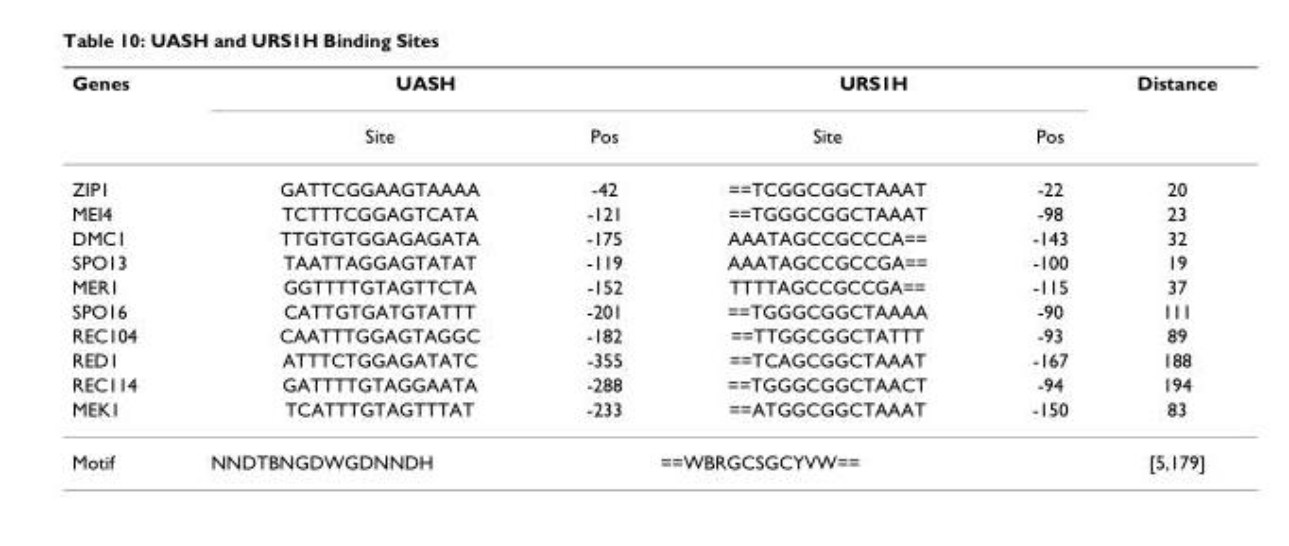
<table><thead><tr><td rowspan="2">Genes</td><td colspan="2">UASH</td><td colspan="2">URS1H</td><td rowspan="2">Distance</td></tr><tr><td>Site</td><td>Pos</td><td>Site</td><td>Pos</td></tr></thead><tbody><tr><td>ZIP1</td><td>GATTCGGAAGTAAAA</td><td>-42</td><td>==TCGGCGGCTAAAT</td><td>-22</td><td>20</td></tr><tr><td>MEI4</td><td>TCTTTCGGAGTCATA</td><td>-121</td><td>==TGGGCGGCTAAAT</td><td>-98</td><td>23</td></tr><tr><td>DMC1</td><td>TTGTGTGGAGAGATA</td><td>-175</td><td>AAATAGCCGCCCA==</td><td>-143</td><td>32</td></tr><tr><td>SPO13</td><td>TAATTAGGAGTATAT</td><td>-119</td><td>AAATAGCCGCCGA==</td><td>-100</td><td>19</td></tr><tr><td>MER1</td><td>GGTTTTGTAGTTCTA</td><td>-152</td><td>TTTTAGCCGCCGA==</td><td>-115</td><td>37</td></tr><tr><td>SPO16</td><td>CATTGTGATGTATTT</td><td>-201</td><td>==TGGGCGGCTAAAA</td><td>-90</td><td>111</td></tr><tr><td>REC104</td><td>CAATTTGGAGTAGGC</td><td>-182</td><td>==TTGGCGGCTATTT</td><td>-93</td><td>89</td></tr><tr><td>RED1</td><td>ATTTCTGGAGATATC</td><td>-355</td><td>==TCAGCGGCTAAAT</td><td>-167</td><td>188</td></tr><tr><td>REC114</td><td>GATTTTGTAGGAATA</td><td>-288</td><td>==TGGGCGGCTAACT</td><td>-94</td><td>194</td></tr><tr><td>MEK1</td><td>TCATTTGTAGTTTAT</td><td>-233</td><td>==ATGGCGGCTAAAT</td><td>-150</td><td>83</td></tr><tr><td>Motif</td><td>NNDTBNGDWGDNNDH</td><td></td><td>==WBRGCSGCYVW==</td><td></td><td>[5,179]</td></tr></tbody></table>